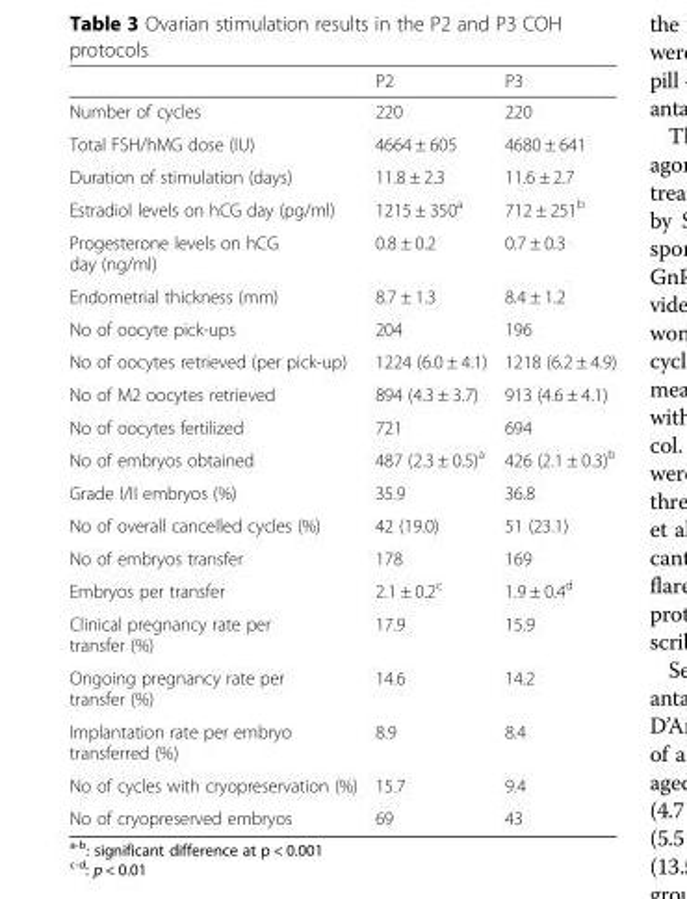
<table><thead><tr><td></td><td>P2</td><td>P3</td></tr></thead><tbody><tr><td>Number of cycles</td><td>220</td><td>220</td></tr><tr><td>Total FSH/hMG dose (IU)</td><td>4664 ± 605</td><td>4680 ± 641</td></tr><tr><td>Duration of stimulation (days)</td><td>11.8 ± 2.3</td><td>11.6 ± 2.7</td></tr><tr><td>Estradiol levels on hCG day (pg/ml)</td><td>1215 ± 350<sup>a</sup></td><td>712 ± 251<sup>b</sup></td></tr><tr><td>Progesterone levels on hCG day (ng/ml)</td><td>0.8 ± 0.2</td><td>0.7 ± 0.3</td></tr><tr><td>Endometrial thickness (mm)</td><td>8.7 ± 1.3</td><td>8.4 ± 1.2</td></tr><tr><td>No of oocyte pick-ups</td><td>204</td><td>196</td></tr><tr><td>No of oocytes retrieved (per pick-up)</td><td>1224 (6.0 ± 4.1)</td><td>1218 (6.2 ± 4.9)</td></tr><tr><td>No of M2 oocytes retrieved</td><td>894 (4.3 ± 3.7)</td><td>913 (4.6 ± 4.1)</td></tr><tr><td>No of oocytes fertilized</td><td>721</td><td>694</td></tr><tr><td>No of embryos obtained</td><td>487 (2.3 ± 0.5)<sup>a</sup></td><td>426 (2.1 ± 0.3)<sup>b</sup></td></tr><tr><td>Grade I/II embryos (%)</td><td>35.9</td><td>36.8</td></tr><tr><td>No of overall cancelled cycles (%)</td><td>42 (19.0)</td><td>51 (23.1)</td></tr><tr><td>No of embryos transfer</td><td>178</td><td>169</td></tr><tr><td>Embryos per transfer</td><td>2.1 ± 0.2<sup>c</sup></td><td>1.9 ± 0.4<sup>d</sup></td></tr><tr><td>Clinical pregnancy rate per transfer (%)</td><td>17.9</td><td>15.9</td></tr><tr><td>Ongoing pregnancy rate per transfer (%)</td><td>14.6</td><td>14.2</td></tr><tr><td>Implantation rate per embryo transferred (%)</td><td>8.9</td><td>8.4</td></tr><tr><td>No of cycles with cryopreservation (%)</td><td>15.7</td><td>9.4</td></tr><tr><td>No of cryopreserved embryos</td><td>69</td><td>43</td></tr></tbody></table>